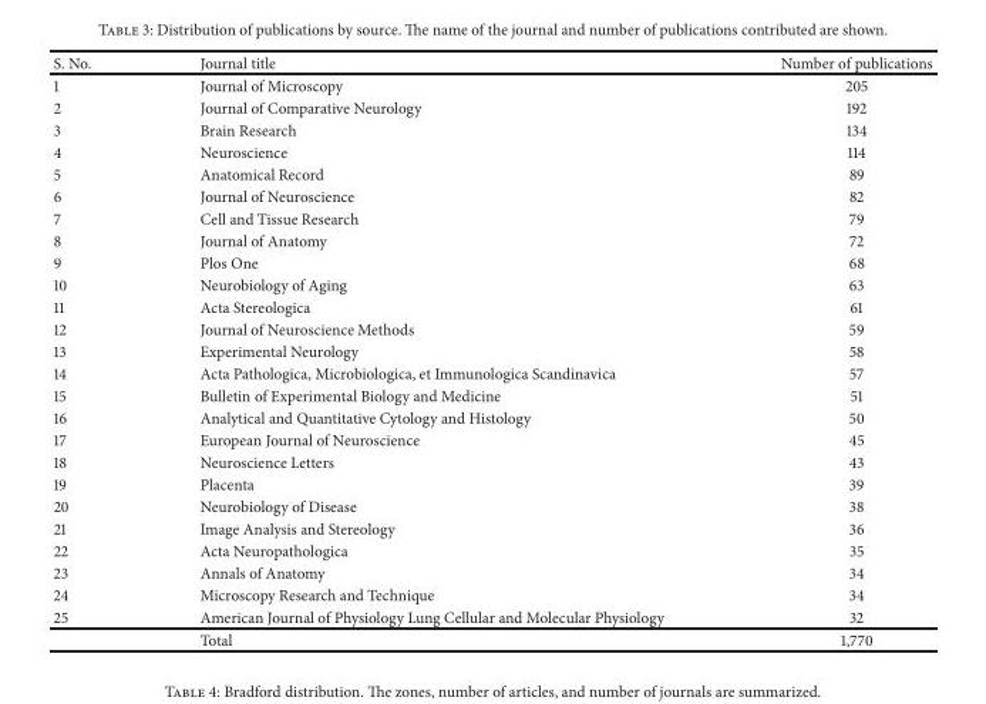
<table><thead><tr><td>S. No.</td><td>Journal title</td><td>Number of publications</td></tr></thead><tbody><tr><td>1</td><td>Journal of Microscopy</td><td>205</td></tr><tr><td>2</td><td>Journal of Comparative Neurology</td><td>192</td></tr><tr><td>3</td><td>Brain Research</td><td>134</td></tr><tr><td>4</td><td>Neuroscience</td><td>114</td></tr><tr><td>5</td><td>Anatomical Record</td><td>89</td></tr><tr><td>6</td><td>Journal of Neuroscience</td><td>82</td></tr><tr><td>7</td><td>Cell and Tissue Research</td><td>79</td></tr><tr><td>8</td><td>Journal of Anatomy</td><td>72</td></tr><tr><td>9</td><td>Plos One</td><td>68</td></tr><tr><td>10</td><td>Neurobiology of Aging</td><td>63</td></tr><tr><td>11</td><td>Acta Stereologica</td><td>61</td></tr><tr><td>12</td><td>Journal of Neuroscience Methods</td><td>59</td></tr><tr><td>13</td><td>Experimental Neurology</td><td>58</td></tr><tr><td>14</td><td>Acta Pathologica, Microbiologica, et Immunologica Scandinavica</td><td>57</td></tr><tr><td>15</td><td>Bulletin of Experimental Biology and Medicine</td><td>51</td></tr><tr><td>16</td><td>Analytical and Quantitative Cytology and Histology</td><td>50</td></tr><tr><td>17</td><td>European Journal of Neuroscience</td><td>45</td></tr><tr><td>18</td><td>Neuroscience Letters</td><td>43</td></tr><tr><td>19</td><td>Placenta</td><td>39</td></tr><tr><td>20</td><td>Neurobiology of Disease</td><td>38</td></tr><tr><td>21</td><td>Image Analysis and Stereology</td><td>36</td></tr><tr><td>22</td><td>Acta Neuropathologica</td><td>35</td></tr><tr><td>23</td><td>Annals of Anatomy</td><td>34</td></tr><tr><td>24</td><td>Microscopy Research and Technique</td><td>34</td></tr><tr><td rowspan="2">25</td><td>American Journal of Physiology Lung Cellular and Molecular Physiology</td><td>32</td></tr><tr><td>Total</td><td>1,770</td></tr></tbody></table>